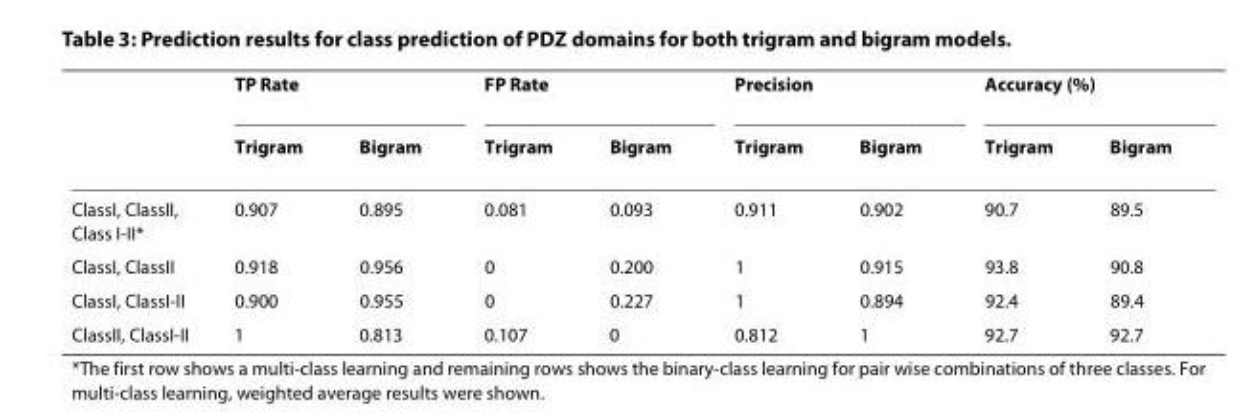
<table><thead><tr><td rowspan="2"></td><td colspan="2">TP Rate</td><td colspan="2">FP Rate</td><td colspan="2">Precision</td><td colspan="2">Accuracy (%)</td></tr><tr><td>Trigram</td><td>Bigram</td><td>Trigram</td><td>Bigram</td><td>Trigram</td><td>Bigram</td><td>Trigram</td><td>Bigram</td></tr></thead><tbody><tr><td>ClassI, ClassII, Class I-II*</td><td>0.907</td><td>0.895</td><td>0.081</td><td>0.093</td><td>0.911</td><td>0.902</td><td>90.7</td><td>89.5</td></tr><tr><td>ClassI, ClassII</td><td>0.918</td><td>0.956</td><td>0</td><td>0.200</td><td>1</td><td>0.915</td><td>93.8</td><td>90.8</td></tr><tr><td>ClassI, ClassI-II</td><td>0.900</td><td>0.955</td><td>0</td><td>0.227</td><td>1</td><td>0.894</td><td>92.4</td><td>89.4</td></tr><tr><td>ClassII, ClassI-II</td><td>1</td><td>0.813</td><td>0.107</td><td>0</td><td>0.812</td><td>1</td><td>92.7</td><td>92.7</td></tr></tbody></table>